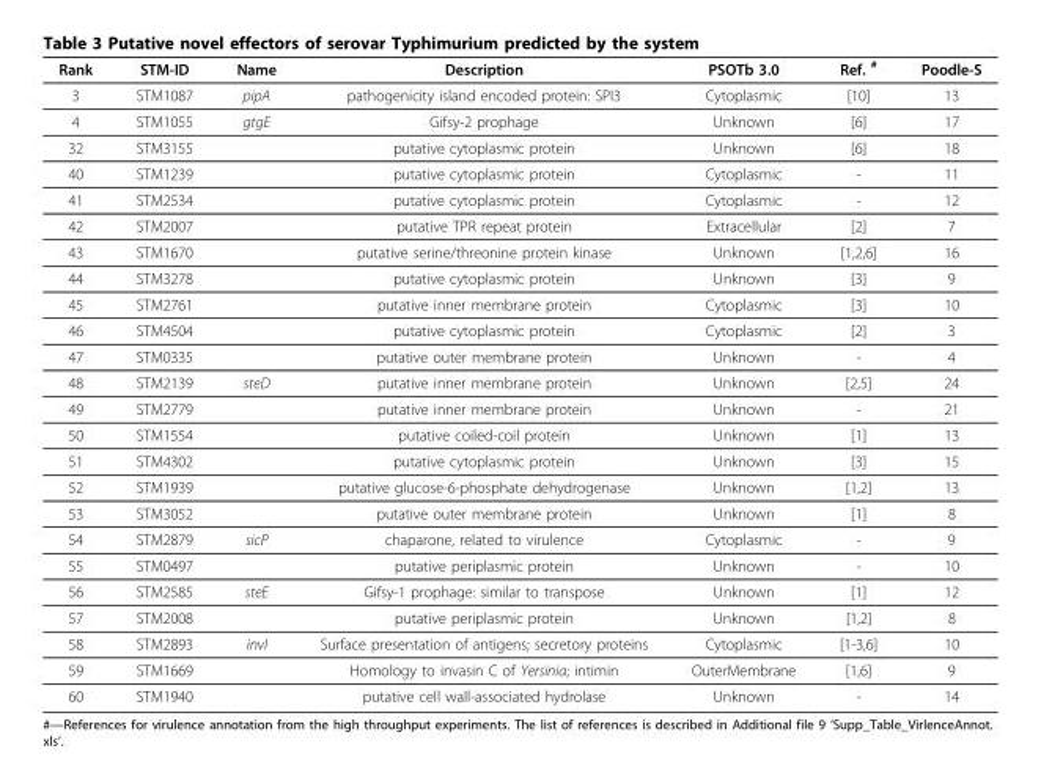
<table><thead><tr><td>Rank</td><td>STM-ID</td><td>Name</td><td>Description</td><td>PSOTb 3.0</td><td>Ref. <sup>#</sup></td><td>Poodle-S</td></tr></thead><tbody><tr><td>3</td><td>STM1087</td><td>pipA</td><td>pathogenicity island encoded protein: SPI3</td><td>Cytoplasmic</td><td>[10]</td><td>13</td></tr><tr><td>4</td><td>STM1055</td><td>gtgE</td><td>Gifsy-2 prophage</td><td>Unknown</td><td>[6]</td><td>17</td></tr><tr><td>32</td><td>STM3155</td><td></td><td>putative cytoplasmic protein</td><td>Unknown</td><td>[6]</td><td>18</td></tr><tr><td>40</td><td>STM1239</td><td></td><td>putative cytoplasmic protein</td><td>Cytoplasmic</td><td>-</td><td>11</td></tr><tr><td>41</td><td>STM2534</td><td></td><td>putative cytoplasmic protein</td><td>Cytoplasmic</td><td>-</td><td>12</td></tr><tr><td>42</td><td>STM2007</td><td></td><td>putative TPR repeat protein</td><td>Extracellular</td><td>[2]</td><td>7</td></tr><tr><td>43</td><td>STM1670</td><td></td><td>putative serine/threonine protein kinase</td><td>Unknown</td><td>[1,2,6]</td><td>16</td></tr><tr><td>44</td><td>STM3278</td><td></td><td>putative cytoplasmic protein</td><td>Unknown</td><td>[3]</td><td>9</td></tr><tr><td>45</td><td>STM2761</td><td></td><td>putative inner membrane protein</td><td>Cytoplasmic</td><td>[3]</td><td>10</td></tr><tr><td>46</td><td>STM4504</td><td></td><td>putative cytoplasmic protein</td><td>Cytoplasmic</td><td>[2]</td><td>3</td></tr><tr><td>47</td><td>STM0335</td><td></td><td>putative outer membrane protein</td><td>Unknown</td><td>-</td><td>4</td></tr><tr><td>48</td><td>STM2139</td><td>steD</td><td>putative inner membrane protein</td><td>Unknown</td><td>[2,5]</td><td>24</td></tr><tr><td>49</td><td>STM2779</td><td></td><td>putative inner membrane protein</td><td>Unknown</td><td>-</td><td>21</td></tr><tr><td>50</td><td>STM1554</td><td></td><td>putative coiled-coil protein</td><td>Unknown</td><td>[1]</td><td>13</td></tr><tr><td>51</td><td>STM4302</td><td></td><td>putative cytoplasmic protein</td><td>Unknown</td><td>[3]</td><td>15</td></tr><tr><td>52</td><td>STM1939</td><td></td><td>putative glucose-6-phosphate dehydrogenase</td><td>Unknown</td><td>[1,2]</td><td>13</td></tr><tr><td>53</td><td>STM3052</td><td></td><td>putative outer membrane protein</td><td>Unknown</td><td>[1]</td><td>8</td></tr><tr><td>54</td><td>STM2879</td><td>sicP</td><td>chaparone, related to virulence</td><td>Cytoplasmic</td><td>-</td><td>9</td></tr><tr><td>55</td><td>STM0497</td><td></td><td>putative periplasmic protein</td><td>Unknown</td><td>-</td><td>10</td></tr><tr><td>56</td><td>STM2585</td><td>steE</td><td>Gifsy-1 prophage: similar to transpose</td><td>Unknown</td><td>[1]</td><td>12</td></tr><tr><td>57</td><td>STM2008</td><td></td><td>putative periplasmic protein</td><td>Unknown</td><td>[1,2]</td><td>8</td></tr><tr><td>58</td><td>STM2893</td><td>invI</td><td>Surface presentation of antigens; secretory proteins</td><td>Cytoplasmic</td><td>[1-3,6]</td><td>10</td></tr><tr><td>59</td><td>STM1669</td><td></td><td>Homology to invasin C of Yersinia; intimin</td><td>OuterMembrane</td><td>[1,6]</td><td>9</td></tr><tr><td>60</td><td>STM1940</td><td></td><td>putative cell wall-associated hydrolase</td><td>Unknown</td><td>-</td><td>14</td></tr></tbody></table>